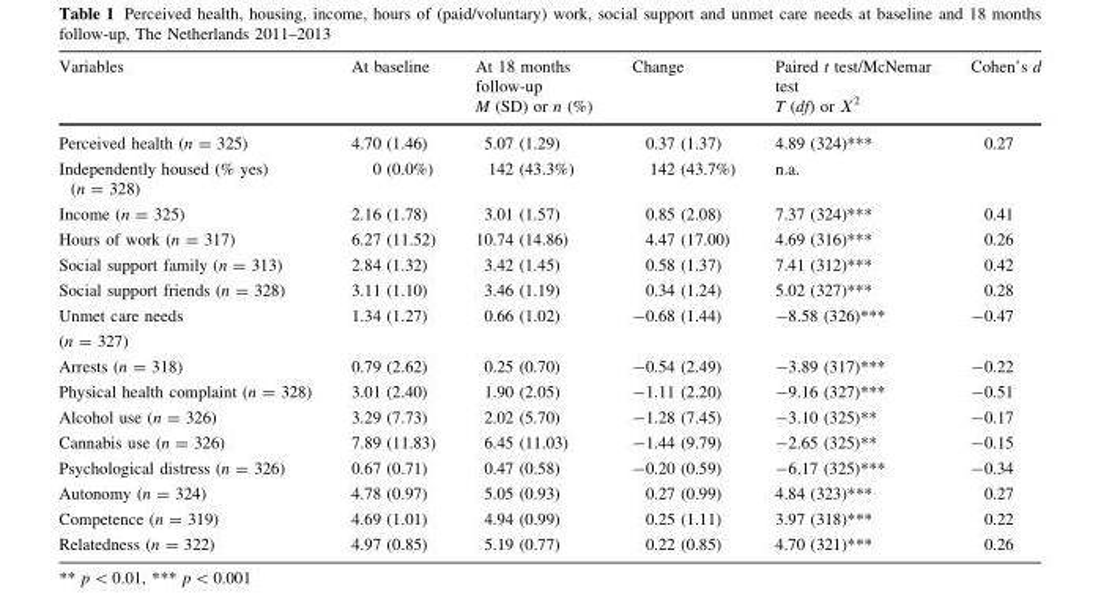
<table><thead><tr><td rowspan="2">Variables</td><td rowspan="2">At baseline</td><td rowspan="2">At 18 months follow-up M (SD) or n (%)</td><td rowspan="2">Change</td><td rowspan="2">Paired t test/McNemar test T (df) or Χ<sup>2</sup></td><td rowspan="2">Cohen’s d</td></tr><tr></tr></thead><tbody><tr><td>Perceived health (n = 325)</td><td>4.70 (1.46)</td><td>5.07 (1.29)</td><td>0.37 (1.37)</td><td>4.89 (324)***</td><td>0.27</td></tr><tr><td>Independently housed (% yes) (n = 328)</td><td>0 (0.0%)</td><td>142 (43.3%)</td><td>142 (43.7%)</td><td>n.a.</td><td></td></tr><tr><td>Income (n = 325)</td><td>2.16 (1.78)</td><td>3.01 (1.57)</td><td>0.85 (2.08)</td><td>7.37 (324)***</td><td>0.41</td></tr><tr><td>Hours of work (n = 317)</td><td>6.27 (11.52)</td><td>10.74 (14.86)</td><td>4.47 (17.00)</td><td>4.69 (316)***</td><td>0.26</td></tr><tr><td>Social support family (n = 313)</td><td>2.84 (1.32)</td><td>3.42 (1.45)</td><td>0.58 (1.37)</td><td>7.41 (312)***</td><td>0.42</td></tr><tr><td>Social support friends (n = 328)</td><td>3.11 (1.10)</td><td>3.46 (1.19)</td><td>0.34 (1.24)</td><td>5.02 (327)***</td><td>0.28</td></tr><tr><td>Unmet care needs (n = 327)</td><td>1.34 (1.27)</td><td>0.66 (1.02)</td><td>-0.68 (1.44)</td><td>-8.58 (326)***</td><td>-0.47</td></tr><tr><td>Arrests (n = 318)</td><td>0.79 (2.62)</td><td>0.25 (0.70)</td><td>-0.54 (2.49)</td><td>-3.89 (317)***</td><td>-0.22</td></tr><tr><td>Physical health complaint (n = 328)</td><td>3.01 (2.40)</td><td>1.90 (2.05)</td><td>-1.11 (2.20)</td><td>-9.16 (327)***</td><td>-0.51</td></tr><tr><td>Alcohol use (n = 326)</td><td>3.29 (7.73)</td><td>2.02 (5.70)</td><td>-1.28 (7.45)</td><td>-3.10 (325)**</td><td>-0.17</td></tr><tr><td>Cannabis use (n = 326)</td><td>7.89 (11.83)</td><td>6.45 (11.03)</td><td>-1.44 (9.79)</td><td>-2.65 (325)**</td><td>-0.15</td></tr><tr><td>Psychological distress (n = 326)</td><td>0.67 (0.71)</td><td>0.47 (0.58)</td><td>-0.20 (0.59)</td><td>-6.17 (325)***</td><td>-0.34</td></tr><tr><td>Autonomy (n = 324)</td><td>4.78 (0.97)</td><td>5.05 (0.93)</td><td>0.27 (0.99)</td><td>4.84 (323)***</td><td>0.27</td></tr><tr><td>Competence (n = 319)</td><td>4.69 (1.01)</td><td>4.94 (0.99)</td><td>0.25 (1.11)</td><td>3.97 (318)***</td><td>0.22</td></tr><tr><td>Relatedness (n = 322)</td><td>4.97 (0.85)</td><td>5.19 (0.77)</td><td>0.22 (0.85)</td><td>4.70 (321)***</td><td>0.26</td></tr></tbody></table>